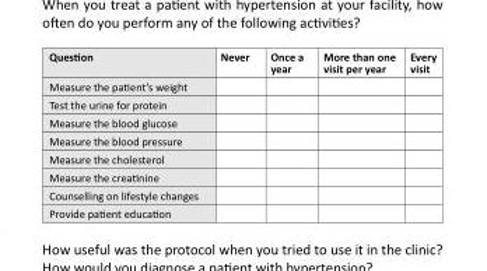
<table><thead><tr><td>Question</td><td>Never</td><td>Once a year</td><td>More than one visit per year</td><td>Every visit</td></tr></thead><tbody><tr><td colspan="5">Measure the patient’s weight</td></tr><tr><td colspan="5">Test the urine for protein</td></tr><tr><td colspan="5">Measure the blood glucose</td></tr><tr><td colspan="5">Measure the blood pressure</td></tr><tr><td colspan="5">Measure the cholesterol</td></tr><tr><td colspan="5">Measure the creatinine</td></tr><tr><td colspan="5">Counselling on lifestyle changes</td></tr><tr><td>Provide patient education</td><td></td><td></td><td></td><td></td></tr></tbody></table>